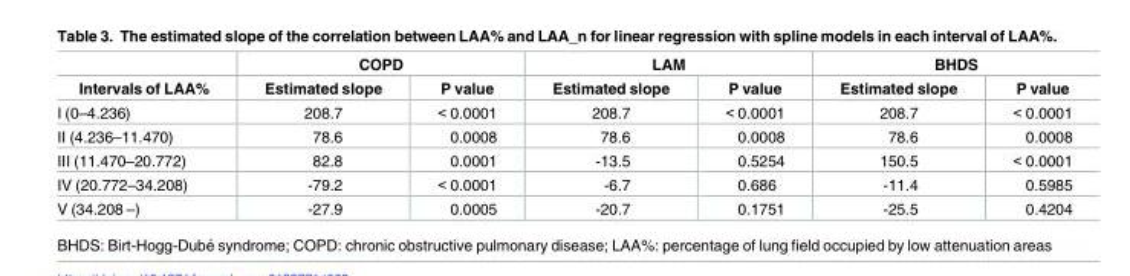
<table><thead><tr><td rowspan="2">Intervals of LAA%</td><td colspan="2">COPD</td><td colspan="2">LAM</td><td colspan="2">BHDS</td></tr><tr><td>Estimated slope</td><td>P value</td><td>Estimated slope</td><td>P value</td><td>Estimated slope</td><td>P value</td></tr></thead><tbody><tr><td>I (0–4.236)</td><td>208.7</td><td>&lt; 0.0001</td><td>208.7</td><td>&lt; 0.0001</td><td>208.7</td><td>&lt; 0.0001</td></tr><tr><td>II (4.236–11.470)</td><td>78.6</td><td>0.0008</td><td>78.6</td><td>0.0008</td><td>78.6</td><td>0.0008</td></tr><tr><td>III (11.470–20.772)</td><td>82.8</td><td>0.0001</td><td>-13.5</td><td>0.5254</td><td>150.5</td><td>&lt; 0.0001</td></tr><tr><td>IV (20.772–34.208)</td><td>-79.2</td><td>&lt; 0.0001</td><td>-6.7</td><td>0.686</td><td>-11.4</td><td>0.5985</td></tr><tr><td>V (34.208 –)</td><td>-27.9</td><td>0.0005</td><td>-20.7</td><td>0.1751</td><td>-25.5</td><td>0.4204</td></tr></tbody></table>